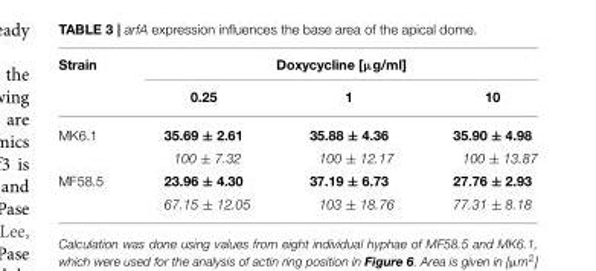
<table><thead><tr><td rowspan="2">Strain</td><td colspan="3">Doxycycline [µg/ml]</td></tr><tr><td>0.25</td><td>1</td><td>10</td></tr></thead><tbody><tr><td rowspan="2">MK6.1</td><td>35.69 ± 2.61</td><td>35.88 ± 4.36</td><td>35.90 ± 4.98</td></tr><tr><td>100 ± 7.32</td><td>100 ± 12.17</td><td>100 ± 13.87</td></tr><tr><td rowspan="2">MF58.5</td><td>23.96 ± 4.30</td><td>37.19 ± 6.73</td><td>27.76 ± 2.93</td></tr><tr><td>67.15 ± 12.05</td><td>103 ± 18.76</td><td>77.31 ± 8.18</td></tr></tbody></table>